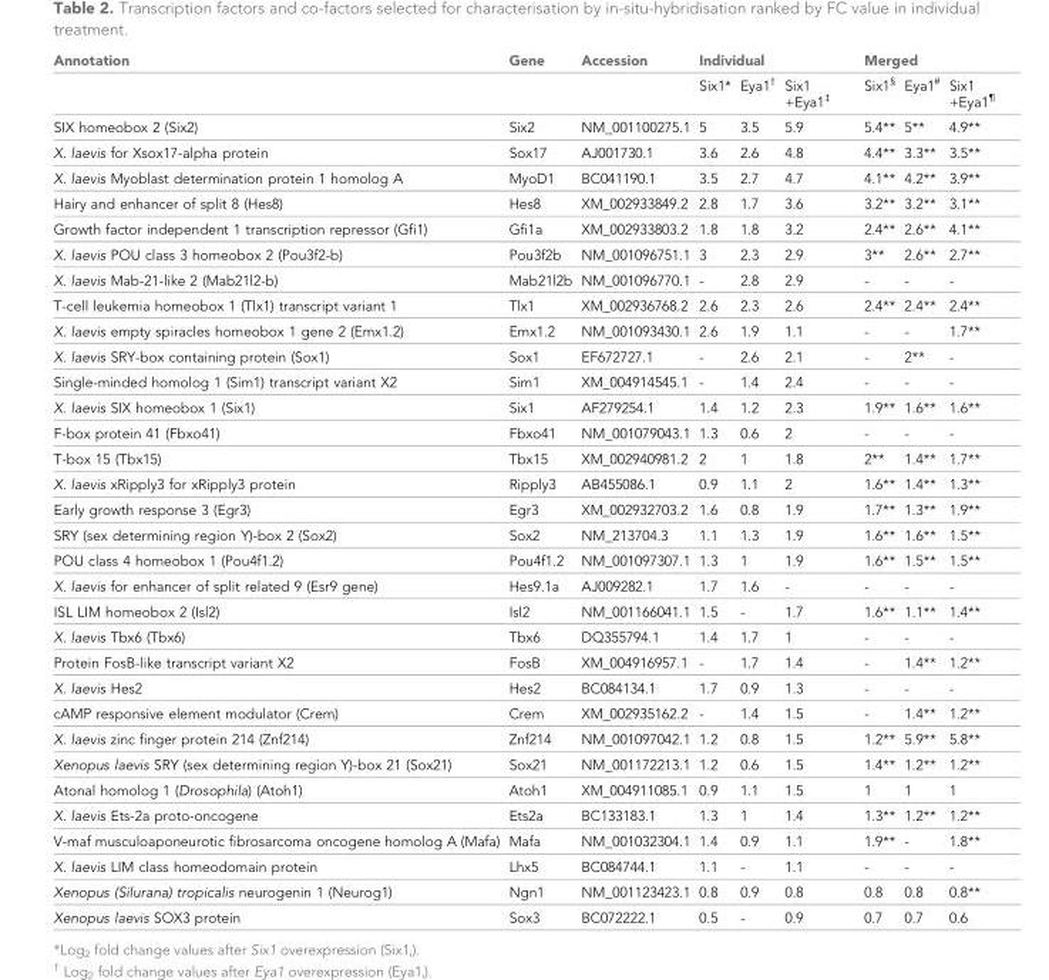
<table><thead><tr><td rowspan="2">Annotation</td><td rowspan="2">Gene</td><td rowspan="2">Accession</td><td colspan="3">Individual</td><td colspan="3">Merged</td></tr><tr><td>Six1*</td><td>Eya1<sup>†</sup></td><td>Six1 +Eya1<sup>‡</sup></td><td>Six1<sup>§</sup></td><td>Eya1<sup>#</sup></td><td>Six1 +Eya1<sup>¶</sup></td></tr></thead><tbody><tr><td>SIX homeobox 2 (Six2)</td><td>Six2</td><td>NM_001100275.1</td><td>5</td><td>3.5</td><td>5.9</td><td>5.4**</td><td>5**</td><td>4.9**</td></tr><tr><td>X. laevis for Xsox17-alpha protein</td><td>Sox17</td><td>AJ001730.1</td><td>3.6</td><td>2.6</td><td>4.8</td><td>4.4**</td><td>3.3**</td><td>3.5**</td></tr><tr><td>X. laevis Myoblast determination protein 1 homolog A</td><td>MyoD1</td><td>BC041190.1</td><td>3.5</td><td>2.7</td><td>4.7</td><td>4.1**</td><td>4.2**</td><td>3.9**</td></tr><tr><td>Hairy and enhancer of split 8 (Hes8)</td><td>Hes8</td><td>XM_002933849.2</td><td>2.8</td><td>1.7</td><td>3.6</td><td>3.2**</td><td>3.2**</td><td>3.1**</td></tr><tr><td>Growth factor independent 1 transcription repressor (Gfi1)</td><td>Gfi1a</td><td>XM_002933803.2</td><td>1.8</td><td>1.8</td><td>3.2</td><td>2.4**</td><td>2.6**</td><td>4.1**</td></tr><tr><td>X. laevis POU class 3 homeobox 2 (Pou3f2-b)</td><td>Pou3f2b</td><td>NM_001096751.1</td><td>3</td><td>2.3</td><td>2.9</td><td>3**</td><td>2.6**</td><td>2.7**</td></tr><tr><td>X. laevis Mab-21-like 2 (Mab21l2-b)</td><td>Mab21l2b</td><td>NM_001096770.1</td><td>-</td><td>2.8</td><td>2.9</td><td>-</td><td>-</td><td>-</td></tr><tr><td>T-cell leukemia homeobox 1 (Tlx1) transcript variant 1</td><td>Tlx1</td><td>XM_002936768.2</td><td>2.6</td><td>2.3</td><td>2.6</td><td>2.4**</td><td>2.4**</td><td>2.4**</td></tr><tr><td>X. laevis empty spiracles homeobox 1 gene 2 (Emx1.2)</td><td>Emx1.2</td><td>NM_001093430.1</td><td>2.6</td><td>1.9</td><td>1.1</td><td>-</td><td>-</td><td>1.7**</td></tr><tr><td>X. laevis SRY-box containing protein (Sox1)</td><td>Sox1</td><td>EF672727.1</td><td>-</td><td>2.6</td><td>2.1</td><td>-</td><td>2**</td><td>-</td></tr><tr><td>Single-minded homolog 1 (Sim1) transcript variant X2</td><td>Sim1</td><td>XM_004914545.1</td><td>-</td><td>1.4</td><td>2.4</td><td>-</td><td>-</td><td>-</td></tr><tr><td>X. laevis SIX homeobox 1 (Six1)</td><td>Six1</td><td>AF279254.1</td><td>1.4</td><td>1.2</td><td>2.3</td><td>1.9**</td><td>1.6**</td><td>1.6**</td></tr><tr><td>F-box protein 41 (Fbxo41)</td><td>Fbxo41</td><td>NM_001079043.1</td><td>1.3</td><td>0.6</td><td>2</td><td>-</td><td>-</td><td>-</td></tr><tr><td>T-box 15 (Tbx15)</td><td>Tbx15</td><td>XM_002940981.2</td><td>2</td><td>1</td><td>1.8</td><td>2**</td><td>1.4**</td><td>1.7**</td></tr><tr><td>X. laevis xRipply3 for xRipply3 protein</td><td>Ripply3</td><td>AB455086.1</td><td>0.9</td><td>1.1</td><td>2</td><td>1.6**</td><td>1.4**</td><td>1.3**</td></tr><tr><td>Early growth response 3 (Egr3)</td><td>Egr3</td><td>XM_002932703.2</td><td>1.6</td><td>0.8</td><td>1.9</td><td>1.7**</td><td>1.3**</td><td>1.9**</td></tr><tr><td>SRY (sex determining region Y)-box 2 (Sox2)</td><td>Sox2</td><td>NM_213704.3</td><td>1.1</td><td>1.3</td><td>1.9</td><td>1.6**</td><td>1.6**</td><td>1.5**</td></tr><tr><td>POU class 4 homeobox 1 (Pou4f1.2)</td><td>Pou4f1.2</td><td>NM_001097307.1</td><td>1.3</td><td>1</td><td>1.9</td><td>1.6**</td><td>1.5**</td><td>1.5**</td></tr><tr><td>X. laevis for enhancer of split related 9 (Esr9 gene)</td><td>Hes9.1a</td><td>AJ009282.1</td><td>1.7</td><td>1.6</td><td>-</td><td>-</td><td>-</td><td>-</td></tr><tr><td>ISL LIM homeobox 2 (Isl2)</td><td>Isl2</td><td>NM_001166041.1</td><td>1.5</td><td>-</td><td>1.7</td><td>1.6**</td><td>1.1**</td><td>1.4**</td></tr><tr><td>X. laevis Tbx6 (Tbx6)</td><td>Tbx6</td><td>DQ355794.1</td><td>1.4</td><td>1.7</td><td>1</td><td>-</td><td>-</td><td>-</td></tr><tr><td>Protein FosB-like transcript variant X2</td><td>FosB</td><td>XM_004916957.1</td><td>-</td><td>1.7</td><td>1.4</td><td>-</td><td>1.4**</td><td>1.2**</td></tr><tr><td>X. laevis Hes2</td><td>Hes2</td><td>BC084134.1</td><td>1.7</td><td>0.9</td><td>1.3</td><td>-</td><td>-</td><td>-</td></tr><tr><td>cAMP responsive element modulator (Crem)</td><td>Crem</td><td>XM_002935162.2</td><td>-</td><td>1.4</td><td>1.5</td><td>-</td><td>1.4**</td><td>1.2**</td></tr><tr><td>X. laevis zinc finger protein 214 (Znf214)</td><td>Znf214</td><td>NM_001097042.1</td><td>1.2</td><td>0.8</td><td>1.5</td><td>1.2**</td><td>5.9**</td><td>5.8**</td></tr><tr><td>Xenopus laevis SRY (sex determining region Y)-box 21 (Sox21)</td><td>Sox21</td><td>NM_001172213.1</td><td>1.2</td><td>0.6</td><td>1.5</td><td>1.4**</td><td>1.2**</td><td>1.2**</td></tr><tr><td>Atonal homolog 1 (Drosophila) (Atoh1)</td><td>Atoh1</td><td>XM_004911085.1</td><td>0.9</td><td>1.1</td><td>1.5</td><td>1</td><td>1</td><td>1</td></tr><tr><td>X. laevis Ets-2a proto-oncogene</td><td>Ets2a</td><td>BC133183.1</td><td>1.3</td><td>1</td><td>1.4</td><td>1.3**</td><td>1.2**</td><td>1.2**</td></tr><tr><td>V-maf musculoaponeurotic fibrosarcoma oncogene homolog A (Mafa)</td><td>Mafa</td><td>NM_001032304.1</td><td>1.4</td><td>0.9</td><td>1.1</td><td>1.9**</td><td>-</td><td>1.8**</td></tr><tr><td>X. laevis LIM class homeodomain protein</td><td>Lhx5</td><td>BC084744.1</td><td>1.1</td><td>-</td><td>1.1</td><td>-</td><td>-</td><td>-</td></tr><tr><td>Xenopus (Silurana) tropicalis neurogenin 1 (Neurog1)</td><td>Ngn1</td><td>NM_001123423.1</td><td>0.8</td><td>0.9</td><td>0.8</td><td>0.8</td><td>0.8</td><td>0.8**</td></tr><tr><td>Xenopus laevis SOX3 protein</td><td>Sox3</td><td>BC072222.1</td><td>0.5</td><td>-</td><td>0.9</td><td>0.7</td><td>0.7</td><td>0.6</td></tr></tbody></table>